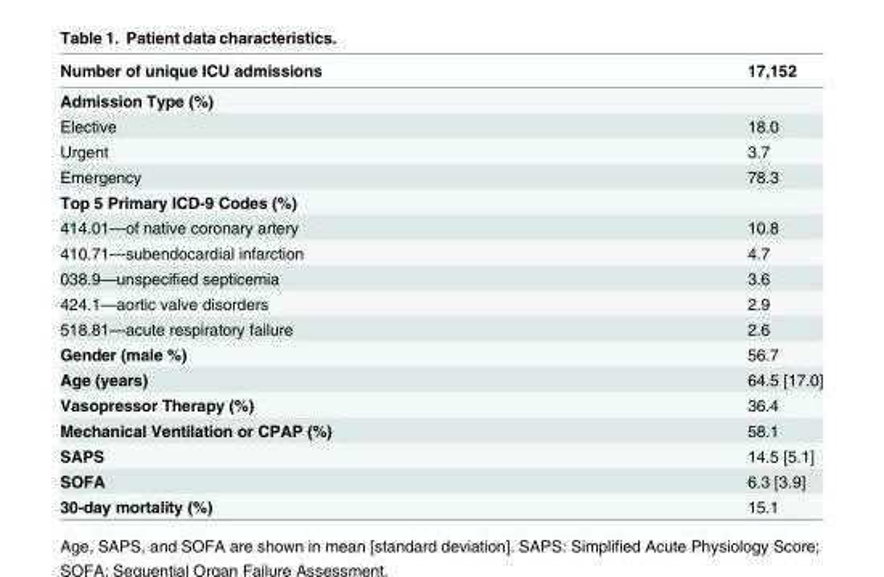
<table><thead><tr><td>Number of unique ICU admissions</td><td>17,152</td></tr></thead><tbody><tr><td colspan="2">Admission Type (%)</td></tr><tr><td>Elective</td><td>18.0</td></tr><tr><td>Urgent</td><td>3.7</td></tr><tr><td>Emergency</td><td>78.3</td></tr><tr><td colspan="2">Top 5 Primary ICD-9 Codes (%)</td></tr><tr><td>414.01—of native coronary artery</td><td>10.8</td></tr><tr><td>410.71—subendocardial infarction</td><td>4.7</td></tr><tr><td>038.9—unspecified septicemia</td><td>3.6</td></tr><tr><td>424.1—aortic valve disorders</td><td>2.9</td></tr><tr><td>518.81—acute respiratory failure</td><td>2.6</td></tr><tr><td>Gender (male %)</td><td>56.7</td></tr><tr><td>Age (years)</td><td>64.5 [17.0]</td></tr><tr><td>Vasopressor Therapy (%)</td><td>36.4</td></tr><tr><td>Mechanical Ventilation or CPAP (%)</td><td>58.1</td></tr><tr><td>SAPS</td><td>14.5 [5.1]</td></tr><tr><td>SOFA</td><td>6.3 [3.9]</td></tr><tr><td>30-day mortality (%)</td><td>15.1</td></tr></tbody></table>